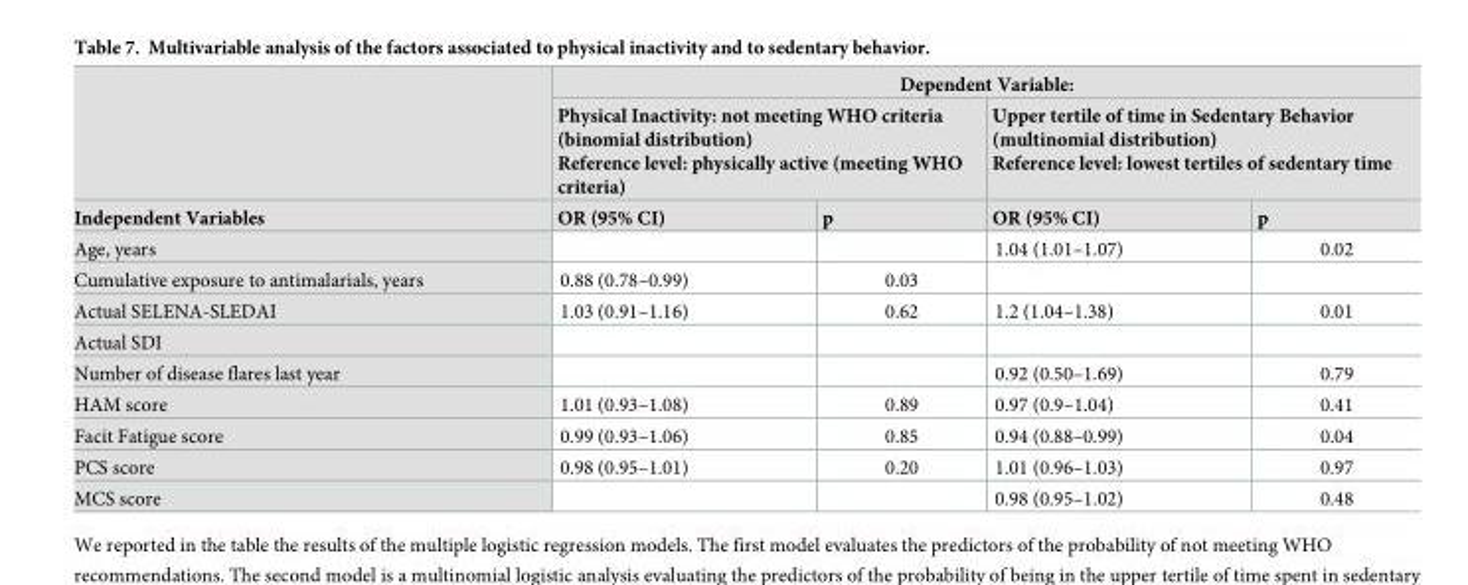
<table><thead><tr><td rowspan="3">Independent Variables</td><td colspan="4">Dependent Variable:</td></tr><tr><td colspan="2">Physical Inactivity: not meeting WHO criteria (binomial distribution) Reference level: physically active (meeting WHO criteria)</td><td colspan="2">Upper tertile of time in Sedentary Behavior (multinomial distribution) Reference level: lowest tertiles of sedentary time</td></tr><tr><td>OR (95% CI)</td><td>p</td><td>OR (95% CI)</td><td>p</td></tr></thead><tbody><tr><td>Age, years</td><td></td><td></td><td>1.04 (1.01–1.07)</td><td>0.02</td></tr><tr><td>Cumulative exposure to antimalarials, years</td><td>0.88 (0.78–0.99)</td><td>0.03</td><td></td><td></td></tr><tr><td>Actual SELENA-SLEDAI</td><td>1.03 (0.91–1.16)</td><td>0.62</td><td>1.2 (1.04–1.38)</td><td>0.01</td></tr><tr><td colspan="5">Actual SDI</td></tr><tr><td>Number of disease flares last year</td><td></td><td></td><td>0.92 (0.50–1.69)</td><td>0.79</td></tr><tr><td>HAM score</td><td>1.01 (0.93–1.08)</td><td>0.89</td><td>0.97 (0.9–1.04)</td><td>0.41</td></tr><tr><td>Facit Fatigue score</td><td>0.99 (0.93–1.06)</td><td>0.85</td><td>0.94 (0.88–0.99)</td><td>0.04</td></tr><tr><td>PCS score</td><td>0.98 (0.95–1.01)</td><td>0.20</td><td>1.01 (0.96–1.03)</td><td>0.97</td></tr><tr><td>MCS score</td><td></td><td></td><td>0.98 (0.95–1.02)</td><td>0.48</td></tr></tbody></table>